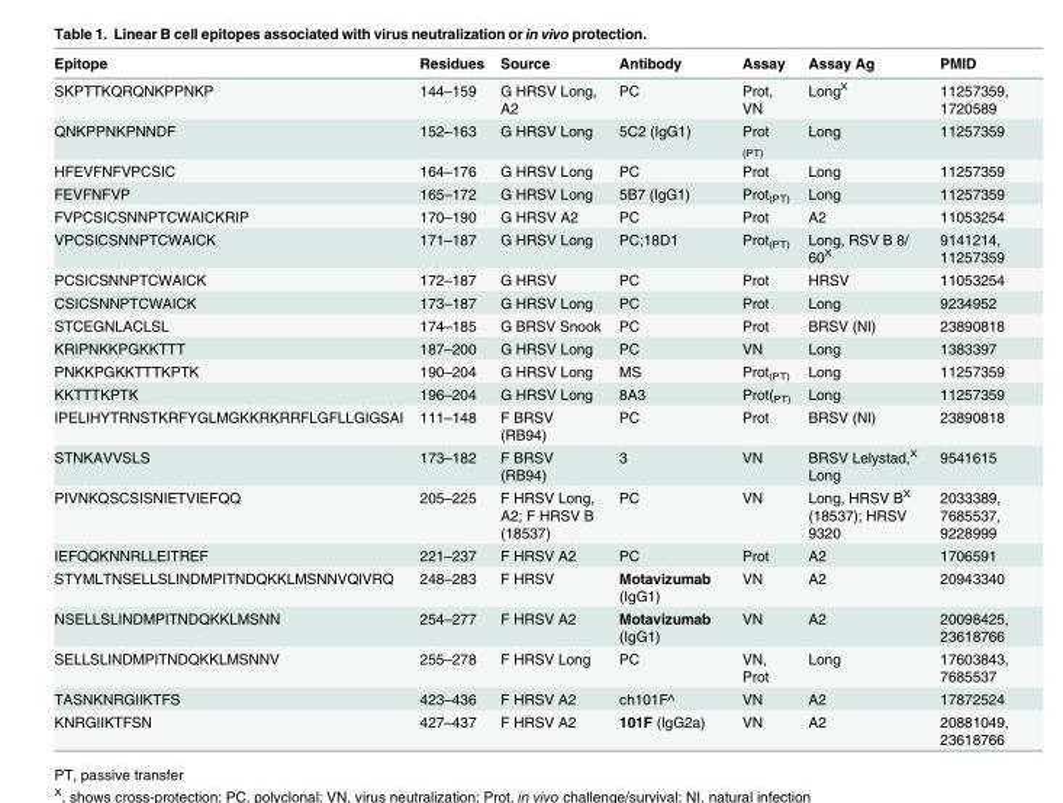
<table><thead><tr><td>Epitope</td><td>Residues</td><td>Source</td><td>Antibody</td><td>Assay</td><td>Assay Ag</td><td>PMID</td></tr></thead><tbody><tr><td>SKPTTKQRQNKPPNKP</td><td>144–159</td><td>G HRSV Long, A2</td><td>PC</td><td>Prot, VN</td><td>Long<sup>X</sup></td><td>11257359, 1720589</td></tr><tr><td>QNKPPNKPNNDF</td><td>152–163</td><td>G HRSV Long</td><td>5C2 (IgG1)</td><td>Prot <sub>(PT)</sub></td><td>Long</td><td>11257359</td></tr><tr><td>HFEVFNFVPCSIC</td><td>164–176</td><td>G HRSV Long</td><td>PC</td><td>Prot</td><td>Long</td><td>11257359</td></tr><tr><td>FEVFNFVP</td><td>165–172</td><td>G HRSV Long</td><td>5B7 (IgG1)</td><td>Prot<sub>(PT)</sub></td><td>Long</td><td>11257359</td></tr><tr><td>FVPCSICSNNPTCWAICKRIP</td><td>170–190</td><td>G HRSV A2</td><td>PC</td><td>Prot</td><td>A2</td><td>11053254</td></tr><tr><td>VPCSICSNNPTCWAICK</td><td>171–187</td><td>G HRSV Long</td><td>PC;18D1</td><td>Prot<sub>(PT)</sub></td><td>Long, RSV B 8/ 60<sup>X</sup></td><td>9141214, 11257359</td></tr><tr><td>PCSICSNNPTCWAICK</td><td>172–187</td><td>G HRSV</td><td>PC</td><td>Prot</td><td>HRSV</td><td>11053254</td></tr><tr><td>CSICSNNPTCWAICK</td><td>173–187</td><td>G HRSV Long</td><td>PC</td><td>Prot</td><td>Long</td><td>9234952</td></tr><tr><td>STCEGNLACLSL</td><td>174–185</td><td>G BRSV Snook</td><td>PC</td><td>Prot</td><td>BRSV (NI)</td><td>23890818</td></tr><tr><td>KRIPNKKPGKKTTT</td><td>187–200</td><td>G HRSV Long</td><td>PC</td><td>VN</td><td>Long</td><td>1383397</td></tr><tr><td>PNKKPGKKTTTKPTK</td><td>190–204</td><td>G HRSV Long</td><td>MS</td><td>Prot<sub>(PT)</sub></td><td>Long</td><td>11257359</td></tr><tr><td>KKTTTKPTK</td><td>196–204</td><td>G HRSV Long</td><td>8A3</td><td>Prot(<sub>PT)</sub></td><td>Long</td><td>11257359</td></tr><tr><td>IPELIHYTRNSTKRFYGLMGKKRKRRFLGFLLGIGSAI</td><td>111–148</td><td>F BRSV (RB94)</td><td>PC</td><td>Prot</td><td>BRSV (NI)</td><td>23890818</td></tr><tr><td>STNKAVVSLS</td><td>173–182</td><td>F BRSV (RB94)</td><td>3</td><td>VN</td><td>BRSV Lelystad,<sup>X</sup> Long</td><td>9541615</td></tr><tr><td>PIVNKQSCSISNIETVIEFQQ</td><td>205–225</td><td>F HRSV Long, A2; F HRSV B (18537)</td><td>PC</td><td>VN</td><td>Long, HRSV B<sup>X</sup> (18537); HRSV 9320</td><td>2033389, 7685537, 9228999</td></tr><tr><td>IEFQQKNNRLLEITREF</td><td>221–237</td><td>F HRSV A2</td><td>PC</td><td>Prot</td><td>A2</td><td>1706591</td></tr><tr><td>STYMLTNSELLSLINDMPITNDQKKLMSNNVQIVRQ</td><td>248–283</td><td>F HRSV</td><td>Motavizumab (IgG1)</td><td>VN</td><td>A2</td><td>20943340</td></tr><tr><td>NSELLSLINDMPITNDQKKLMSNN</td><td>254–277</td><td>F HRSV A2</td><td>Motavizumab (IgG1)</td><td>VN</td><td>A2</td><td>20098425, 23618766</td></tr><tr><td>SELLSLINDMPITNDQKKLMSNNV</td><td>255–278</td><td>F HRSV Long</td><td>PC</td><td>VN, Prot</td><td>Long</td><td>17603843, 7685537</td></tr><tr><td>TASNKNRGIIKTFS</td><td>423–436</td><td>F HRSV A2</td><td>ch101F^</td><td>VN</td><td>A2</td><td>17872524</td></tr><tr><td>KNRGIIKTFSN</td><td>427–437</td><td>F HRSV A2</td><td>101F (IgG2a)</td><td>VN</td><td>A2</td><td>20881049, 23618766</td></tr></tbody></table>